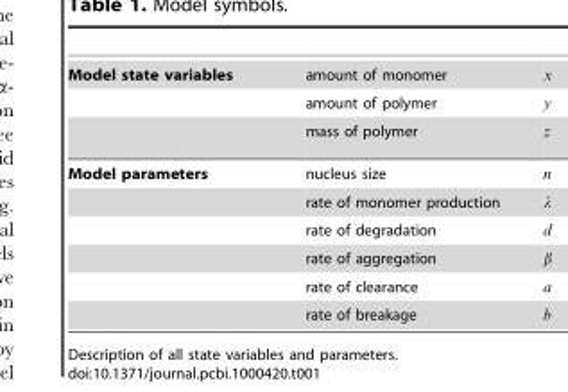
<table><tbody><tr><td rowspan="3">Model state variables</td><td>amount of monomer</td></tr><tr><td>amount of polymer</td></tr><tr><td>mass of polymer</td></tr><tr><td rowspan="6">Model parameters</td><td>nucleus size</td></tr><tr><td>rate of monomer production</td></tr><tr><td>rate of degradation</td></tr><tr><td>rate of aggregation</td></tr><tr><td>rate of clearance</td></tr><tr><td>rate of breakage</td></tr></tbody></table>